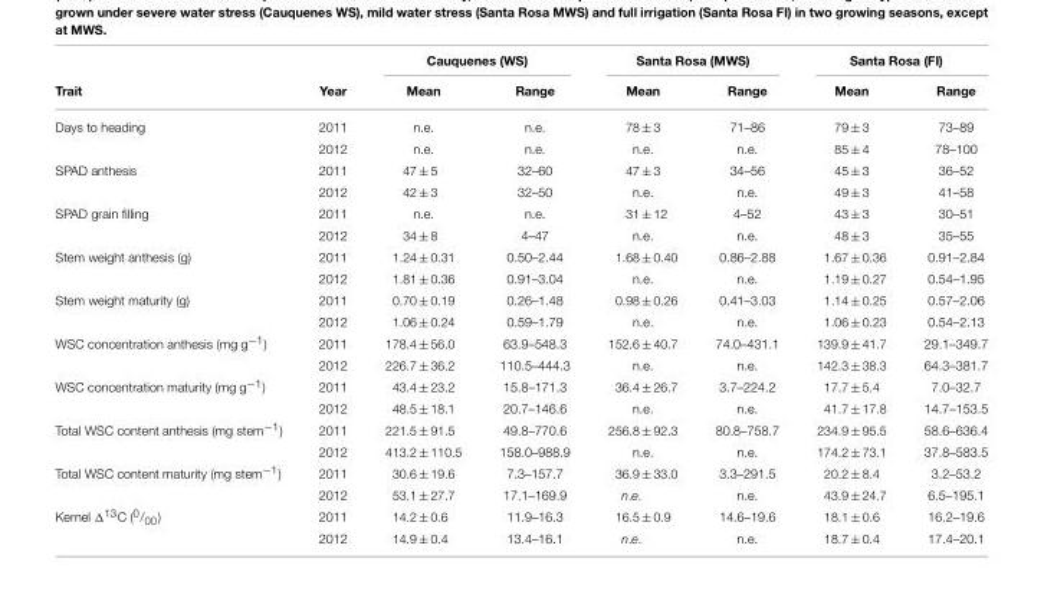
<table><thead><tr><td rowspan="2">Trait</td><td rowspan="2">Year</td><td colspan="2">Cauquenes (WS)</td><td colspan="2">Santa Rosa (MWS)</td><td colspan="2">Santa Rosa (FI)</td></tr><tr><td>Mean</td><td>Range</td><td>Mean</td><td>Range</td><td>Mean</td><td>Range</td></tr></thead><tbody><tr><td rowspan="2">Days to heading</td><td>2011</td><td>n.e.</td><td>n.e.</td><td>78 ± 3</td><td>71–86</td><td>79 ± 3</td><td>73–89</td></tr><tr><td>2012</td><td>n.e.</td><td>n.e.</td><td>n.e.</td><td>n.e.</td><td>85 ± 4</td><td>78–100</td></tr><tr><td rowspan="2">SPAD anthesis</td><td>2011</td><td>47 ± 5</td><td>32–60</td><td>47 ± 3</td><td>34–56</td><td>45 ± 3</td><td>36–52</td></tr><tr><td>2012</td><td>42 ± 3</td><td>32–50</td><td>n.e.</td><td>n.e.</td><td>49 ± 3</td><td>41–58</td></tr><tr><td rowspan="2">SPAD grain filling</td><td>2011</td><td>n.e.</td><td>n.e.</td><td>31 ± 12</td><td>4–52</td><td>43 ± 3</td><td>30–51</td></tr><tr><td>2012</td><td>34 ± 8</td><td>4–47</td><td>n.e.</td><td>n.e.</td><td>48 ± 3</td><td>35–55</td></tr><tr><td rowspan="2">Stem weight anthesis (g)</td><td>2011</td><td>1.24 ± 0.31</td><td>0.50–2.44</td><td>1.68 ± 0.40</td><td>0.86–2.88</td><td>1.67 ± 0.36</td><td>0.91–2.84</td></tr><tr><td>2012</td><td>1.81 ± 0.36</td><td>0.91–3.04</td><td>n.e.</td><td>n.e.</td><td>1.19 ± 0.27</td><td>0.54–1.95</td></tr><tr><td rowspan="2">Stem weight maturity (g)</td><td>2011</td><td>0.70 ± 0.19</td><td>0.26–1.48</td><td>0.98 ± 0.26</td><td>0.41–3.03</td><td>1.14 ± 0.25</td><td>0.57–2.06</td></tr><tr><td>2012</td><td>1.06 ± 0.24</td><td>0.59–1.79</td><td>n.e.</td><td>n.e.</td><td>1.06 ± 0.23</td><td>0.54–2.13</td></tr><tr><td rowspan="2">WSC concentration anthesis (mg g<sup>−1</sup>)</td><td>2011</td><td>178.4 ± 56.0</td><td>63.9–548.3</td><td>152.6 ± 40.7</td><td>74.0–431.1</td><td>139.9 ± 41.7</td><td>29.1–349.7</td></tr><tr><td>2012</td><td>226.7 ± 36.2</td><td>110.5–444.3</td><td>n.e.</td><td>n.e.</td><td>142.3 ± 38.3</td><td>64.3–381.7</td></tr><tr><td rowspan="2">WSC concentration maturity (mg g<sup>−1</sup>)</td><td>2011</td><td>43.4 ± 23.2</td><td>15.8–171.3</td><td>36.4 ± 26.7</td><td>3.7–224.2</td><td>17.7 ± 5.4</td><td>7.0–32.7</td></tr><tr><td>2012</td><td>48.5 ± 18.1</td><td>20.7–146.6</td><td>n.e.</td><td>n.e.</td><td>41.7 ± 17.8</td><td>14.7–153.5</td></tr><tr><td rowspan="2">Total WSC content anthesis (mg stem<sup>−1</sup>)</td><td>2011</td><td>221.5 ± 91.5</td><td>49.8–770.6</td><td>256.8 ± 92.3</td><td>80.8–758.7</td><td>234.9 ± 95.5</td><td>58.6–636.4</td></tr><tr><td>2012</td><td>413.2 ± 110.5</td><td>158.0–988.9</td><td>n.e.</td><td>n.e.</td><td>174.2 ± 73.1</td><td>37.8–583.5</td></tr><tr><td rowspan="2">Total WSC content maturity (mg stem<sup>−1</sup>)</td><td>2011</td><td>30.6 ± 19.6</td><td>7.3–157.7</td><td>36.9 ± 33.0</td><td>3.3–291.5</td><td>20.2 ± 8.4</td><td>3.2–53.2</td></tr><tr><td>2012</td><td>53.1 ± 27.7</td><td>17.1–169.9</td><td>n.e.</td><td>n.e.</td><td>43.9 ± 24.7</td><td>6.5–195.1</td></tr><tr><td rowspan="2">Kernel Δ<sup>13</sup>C (<sup>0</sup>/00)</td><td>2011</td><td>14.2 ± 0.6</td><td>11.9–16.3</td><td>16.5 ± 0.9</td><td>14.6–19.6</td><td>18.1 ± 0.6</td><td>16.2–19.6</td></tr><tr><td>2012</td><td>14.9 ± 0.4</td><td>13.4–16.1</td><td>n.e.</td><td>n.e.</td><td>18.7 ± 0.4</td><td>17.4–20.1</td></tr></tbody></table>